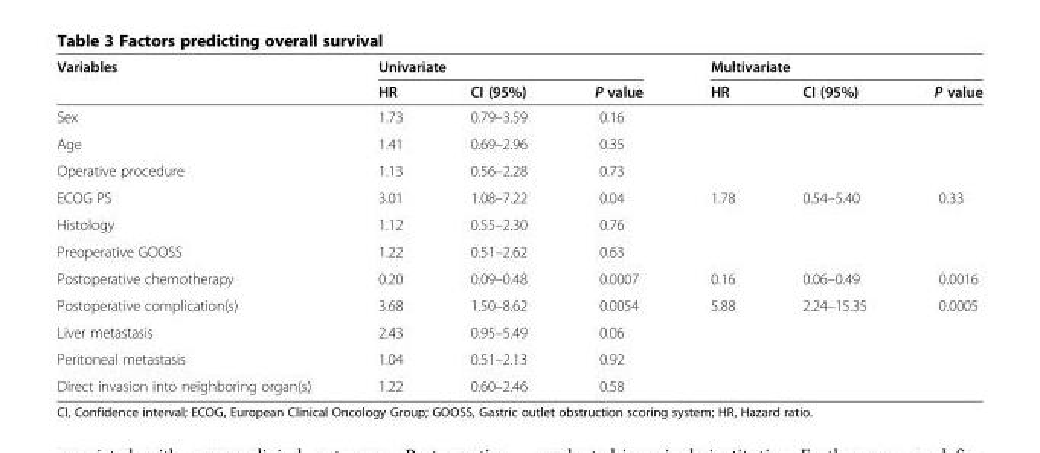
<table><thead><tr><td rowspan="2">Variables</td><td colspan="3">Univariate</td><td colspan="3">Multivariate</td></tr><tr><td>HR</td><td>CI (95%)</td><td>P value</td><td>HR</td><td>CI (95%)</td><td>P value</td></tr></thead><tbody><tr><td>Sex</td><td>1.73</td><td>0.79–3.59</td><td>0.16</td><td></td><td></td><td></td></tr><tr><td>Age</td><td>1.41</td><td>0.69–2.96</td><td>0.35</td><td></td><td></td><td></td></tr><tr><td>Operative procedure</td><td>1.13</td><td>0.56–2.28</td><td>0.73</td><td></td><td></td><td></td></tr><tr><td>ECOG PS</td><td>3.01</td><td>1.08–7.22</td><td>0.04</td><td>1.78</td><td>0.54–5.40</td><td>0.33</td></tr><tr><td>Histology</td><td>1.12</td><td>0.55–2.30</td><td>0.76</td><td></td><td></td><td></td></tr><tr><td>Preoperative GOOSS</td><td>1.22</td><td>0.51–2.62</td><td>0.63</td><td></td><td></td><td></td></tr><tr><td>Postoperative chemotherapy</td><td>0.20</td><td>0.09–0.48</td><td>0.0007</td><td>0.16</td><td>0.06–0.49</td><td>0.0016</td></tr><tr><td>Postoperative complication(s)</td><td>3.68</td><td>1.50–8.62</td><td>0.0054</td><td>5.88</td><td>2.24–15.35</td><td>0.0005</td></tr><tr><td>Liver metastasis</td><td>2.43</td><td>0.95–5.49</td><td>0.06</td><td></td><td></td><td></td></tr><tr><td>Peritoneal metastasis</td><td>1.04</td><td>0.51–2.13</td><td>0.92</td><td></td><td></td><td></td></tr><tr><td>Direct invasion into neighboring organ(s)</td><td>1.22</td><td>0.60–2.46</td><td>0.58</td><td></td><td></td><td></td></tr></tbody></table>